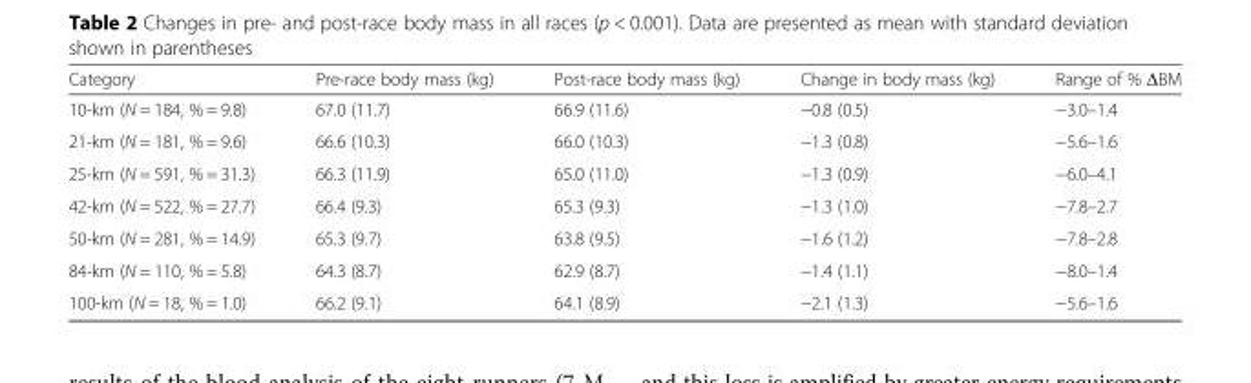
<table><thead><tr><td>Category</td><td>Pre-race body mass (kg)</td><td>Post-race body mass (kg)</td><td>Change in body mass (kg)</td><td>Range of % ΔBM</td></tr></thead><tbody><tr><td>10-km (N = 184, % = 9.8)</td><td>67.0 (11.7)</td><td>66.9 (11.6)</td><td>−0.8 (0.5)</td><td>−3.0–1.4</td></tr><tr><td>21-km (N = 181, % = 9.6)</td><td>66.6 (10.3)</td><td>66.0 (10.3)</td><td>−1.3 (0.8)</td><td>−5.6–1.6</td></tr><tr><td>25-km (N = 591, % = 31.3)</td><td>66.3 (11.9)</td><td>65.0 (11.0)</td><td>−1.3 (0.9)</td><td>−6.0–4.1</td></tr><tr><td>42-km (N = 522, % = 27.7)</td><td>66.4 (9.3)</td><td>65.3 (9.3)</td><td>−1.3 (1.0)</td><td>−7.8–2.7</td></tr><tr><td>50-km (N = 281, % = 14.9)</td><td>65.3 (9.7)</td><td>63.8 (9.5)</td><td>−1.6 (1.2)</td><td>−7.8–2.8</td></tr><tr><td>84-km (N = 110, % = 5.8)</td><td>64.3 (8.7)</td><td>62.9 (8.7)</td><td>−1.4 (1.1)</td><td>−8.0–1.4</td></tr><tr><td>100-km (N = 18, % = 1.0)</td><td>66.2 (9.1)</td><td>64.1 (8.9)</td><td>−2.1 (1.3)</td><td>−5.6–1.6</td></tr></tbody></table>